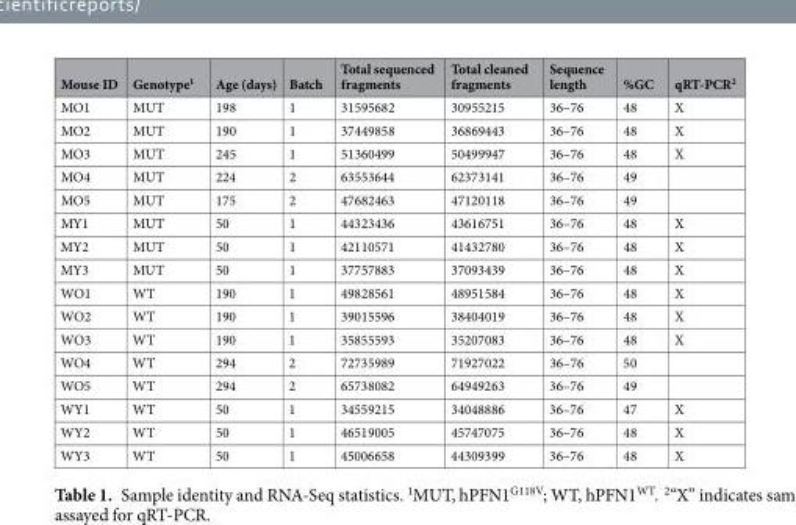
<table><thead><tr><td>Mouse ID</td><td>Genotype<sup>1</sup></td><td>Age (days)</td><td>Batch</td><td>Total sequenced fragments</td><td>Total cleaned fragments</td><td>Sequence length</td><td>%GC</td><td>qRT-PCR<sup>2</sup></td></tr></thead><tbody><tr><td>MO1</td><td>MUT</td><td>198</td><td>1</td><td>31595682</td><td>30955215</td><td>36–76</td><td>48</td><td>X</td></tr><tr><td>MO2</td><td>MUT</td><td>190</td><td>1</td><td>37449858</td><td>36869443</td><td>36–76</td><td>48</td><td>X</td></tr><tr><td>MO3</td><td>MUT</td><td>245</td><td>1</td><td>51360499</td><td>50499947</td><td>36–76</td><td>48</td><td>X</td></tr><tr><td>MO4</td><td>MUT</td><td>224</td><td>2</td><td>63553644</td><td>62373141</td><td>36–76</td><td>49</td><td></td></tr><tr><td>MO5</td><td>MUT</td><td>175</td><td>2</td><td>47682463</td><td>47120118</td><td>36–76</td><td>49</td><td></td></tr><tr><td>MY1</td><td>MUT</td><td>50</td><td>1</td><td>44323436</td><td>43616751</td><td>36–76</td><td>48</td><td>X</td></tr><tr><td>MY2</td><td>MUT</td><td>50</td><td>1</td><td>42110571</td><td>41432780</td><td>36–76</td><td>48</td><td>X</td></tr><tr><td>MY3</td><td>MUT</td><td>50</td><td>1</td><td>37757883</td><td>37093439</td><td>36–76</td><td>48</td><td>X</td></tr><tr><td>WO1</td><td>WT</td><td>190</td><td>1</td><td>49828561</td><td>48951584</td><td>36–76</td><td>48</td><td>X</td></tr><tr><td>WO2</td><td>WT</td><td>190</td><td>1</td><td>39015596</td><td>38404019</td><td>36–76</td><td>48</td><td>X</td></tr><tr><td>WO3</td><td>WT</td><td>190</td><td>1</td><td>35855593</td><td>35207083</td><td>36–76</td><td>48</td><td>X</td></tr><tr><td>WO4</td><td>WT</td><td>294</td><td>2</td><td>72735989</td><td>71927022</td><td>36–76</td><td>50</td><td></td></tr><tr><td>WO5</td><td>WT</td><td>294</td><td>2</td><td>65738082</td><td>64949263</td><td>36–76</td><td>49</td><td></td></tr><tr><td>WY1</td><td>WT</td><td>50</td><td>1</td><td>34559215</td><td>34048886</td><td>36–76</td><td>47</td><td>X</td></tr><tr><td>WY2</td><td>WT</td><td>50</td><td>1</td><td>46519005</td><td>45747075</td><td>36–76</td><td>48</td><td>X</td></tr><tr><td>WY3</td><td>WT</td><td>50</td><td>1</td><td>45006658</td><td>44309399</td><td>36–76</td><td>48</td><td>X</td></tr></tbody></table>